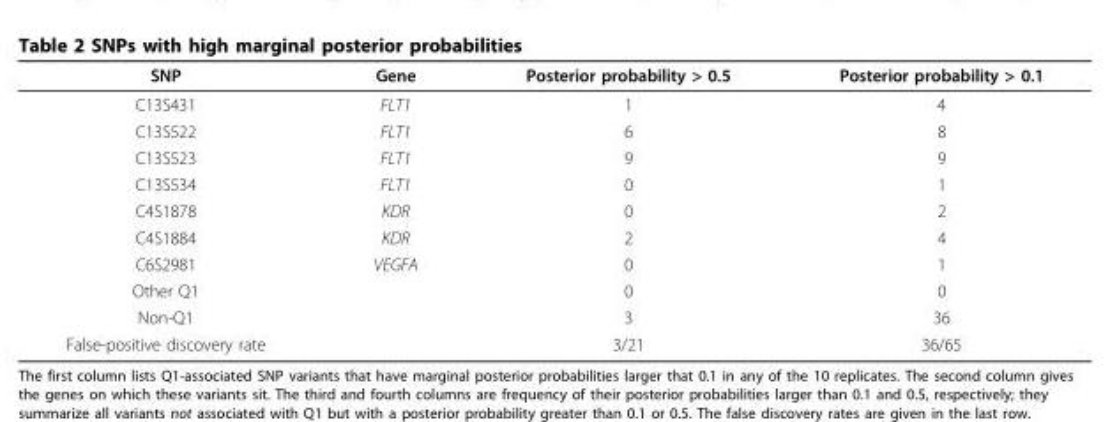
<table><thead><tr><td>SNP</td><td>Gene</td><td>Posterior probability &gt; 0.5</td><td>Posterior probability &gt; 0.1</td></tr></thead><tbody><tr><td>C13S431</td><td>FLT1</td><td>1</td><td>4</td></tr><tr><td>C13S522</td><td>FLT1</td><td>6</td><td>8</td></tr><tr><td>C13S523</td><td>FLT1</td><td>9</td><td>9</td></tr><tr><td>C13S534</td><td>FLT1</td><td>0</td><td>1</td></tr><tr><td>C4S1878</td><td>KDR</td><td>0</td><td>2</td></tr><tr><td>C4S1884</td><td>KDR</td><td>2</td><td>4</td></tr><tr><td>C6S2981</td><td>VEGFA</td><td>0</td><td>1</td></tr><tr><td>Other Q1</td><td></td><td>0</td><td>0</td></tr><tr><td>Non-Q1</td><td></td><td>3</td><td>36</td></tr><tr><td>False-positive discovery rate</td><td></td><td>3/21</td><td>36/65</td></tr></tbody></table>